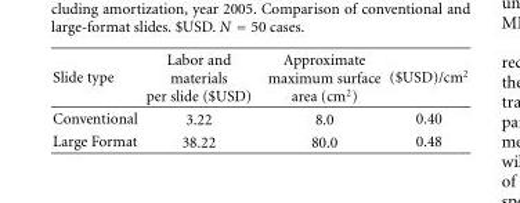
<table><thead><tr><td>Slide type</td><td>Labor and materials per slide ($USD)</td><td>Approximate maximum surface area (cm<sup>2</sup>)</td><td>($USD)/cm<sup>2</sup></td></tr></thead><tbody><tr><td>Conventional</td><td>3.22</td><td>8.0</td><td>0.40</td></tr><tr><td>Large Format</td><td>38.22</td><td>80.0</td><td>0.48</td></tr></tbody></table>